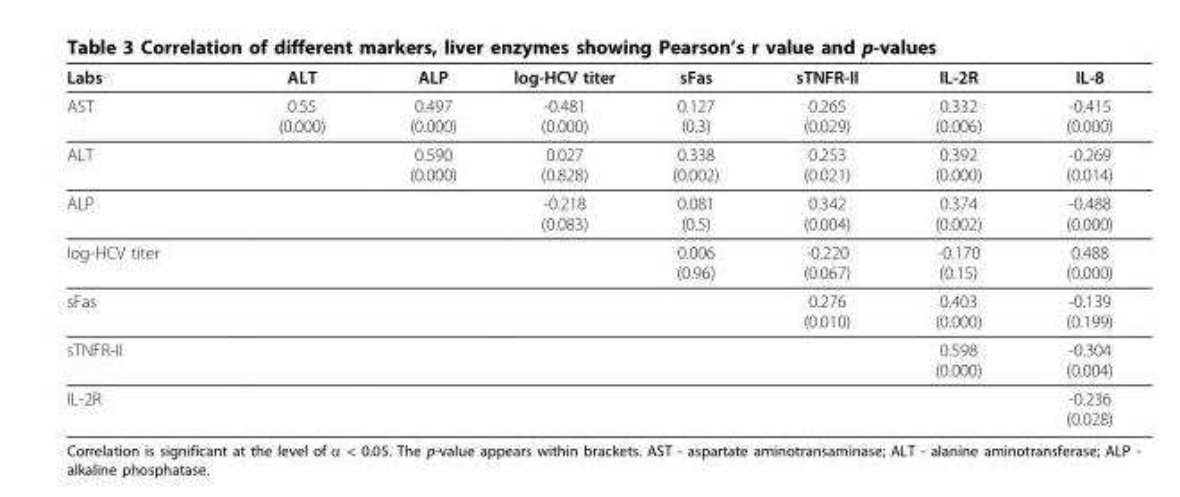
<table><thead><tr><td>Labs</td><td>ALT</td><td>ALP</td><td>log-HCV titer</td><td>sFas</td><td>sTNFR-II</td><td>IL-2R</td><td>IL-8</td></tr></thead><tbody><tr><td>AST</td><td>0.55 (0.000)</td><td>0.497 (0.000)</td><td>-0.481 (0.000)</td><td>0.127 (0.3)</td><td>0.265 (0.029)</td><td>0.332 (0.006)</td><td>-0.415 (0.000)</td></tr><tr><td>ALT</td><td></td><td>0.590 (0.000)</td><td>0.027 (0.828)</td><td>0.338 (0.002)</td><td>0.253 (0.021)</td><td>0.392 (0.000)</td><td>-0.269 (0.014)</td></tr><tr><td>ALP</td><td></td><td></td><td>-0.218 (0.083)</td><td>0.081 (0.5)</td><td>0.342 (0.004)</td><td>0.374 (0.002)</td><td>-0.488 (0.000)</td></tr><tr><td>log-HCV titer</td><td></td><td></td><td></td><td>0.006 (0.96)</td><td>-0.220 (0.067)</td><td>-0.170 (0.15)</td><td>0.488 (0.000)</td></tr><tr><td>sFas</td><td></td><td></td><td></td><td></td><td>0.276 (0.010)</td><td>0.403 (0.000)</td><td>-0.139 (0.199)</td></tr><tr><td>sTNFR-II</td><td></td><td></td><td></td><td></td><td></td><td>0.598 (0.000)</td><td>-0.304 (0.004)</td></tr><tr><td>IL-2R</td><td></td><td></td><td></td><td></td><td></td><td></td><td>-0.236 (0.028)</td></tr></tbody></table>